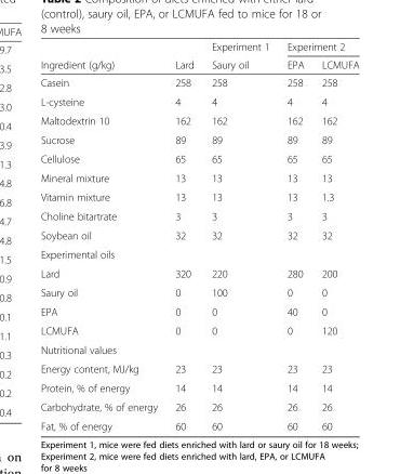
<table><thead><tr><td rowspan="2">Ingredient (g/kg)</td><td rowspan="2">Lard</td><td rowspan="2">Experiment 1 Saury oil</td><td colspan="2">Experiment 2</td></tr><tr><td>EPA</td><td>LCMUFA</td></tr></thead><tbody><tr><td>Casein</td><td>258</td><td>258</td><td>258</td><td>258</td></tr><tr><td>L-cysteine</td><td>4</td><td>4</td><td>4</td><td>4</td></tr><tr><td>Maltodextrin 10</td><td>162</td><td>162</td><td>162</td><td>162</td></tr><tr><td>Sucrose</td><td>89</td><td>89</td><td>89</td><td>89</td></tr><tr><td>Cellulose</td><td>65</td><td>65</td><td>65</td><td>65</td></tr><tr><td>Mineral mixture</td><td>13</td><td>13</td><td>13</td><td>13</td></tr><tr><td>Vitamin mixture</td><td>13</td><td>13</td><td>13</td><td>1.3</td></tr><tr><td>Choline bitartrate</td><td>3</td><td>3</td><td>3</td><td>3</td></tr><tr><td>Soybean oil</td><td>32</td><td>32</td><td>32</td><td>32</td></tr><tr><td colspan="5">Experimental oils</td></tr><tr><td>Lard</td><td>320</td><td>220</td><td>280</td><td>200</td></tr><tr><td>Saury oil</td><td>0</td><td>100</td><td>0</td><td>0</td></tr><tr><td>EPA</td><td>0</td><td>0</td><td>40</td><td>0</td></tr><tr><td>LCMUFA</td><td>0</td><td>0</td><td>0</td><td>120</td></tr><tr><td colspan="5">Nutritional values</td></tr><tr><td>Energy content, MJ/kg</td><td>23</td><td>23</td><td>23</td><td>23</td></tr><tr><td>Protein, % of energy</td><td>14</td><td>14</td><td>14</td><td>14</td></tr><tr><td>Carbohydrate, % of energy</td><td>26</td><td>26</td><td>26</td><td>26</td></tr><tr><td>Fat, % of energy</td><td>60</td><td>60</td><td>60</td><td>60</td></tr></tbody></table>